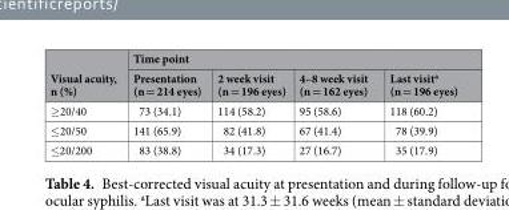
<table><thead><tr><td rowspan="2">Visual acuity, n (%)</td><td colspan="4">Time point</td></tr><tr><td>Presentation (n = 214 eyes)</td><td>2 week visit (n = 196 eyes)</td><td>4–8 week visit (n = 162 eyes)</td><td>Last visit<sup>a</sup> (n = 196 eyes)</td></tr></thead><tbody><tr><td>≥20/40</td><td>73 (34.1)</td><td>114 (58.2)</td><td>95 (58.6)</td><td>118 (60.2)</td></tr><tr><td>≤20/50</td><td>141 (65.9)</td><td>82 (41.8)</td><td>67 (41.4)</td><td>78 (39.9)</td></tr><tr><td>≤20/200</td><td>83 (38.8)</td><td>34 (17.3)</td><td>27 (16.7)</td><td>35 (17.9)</td></tr></tbody></table>